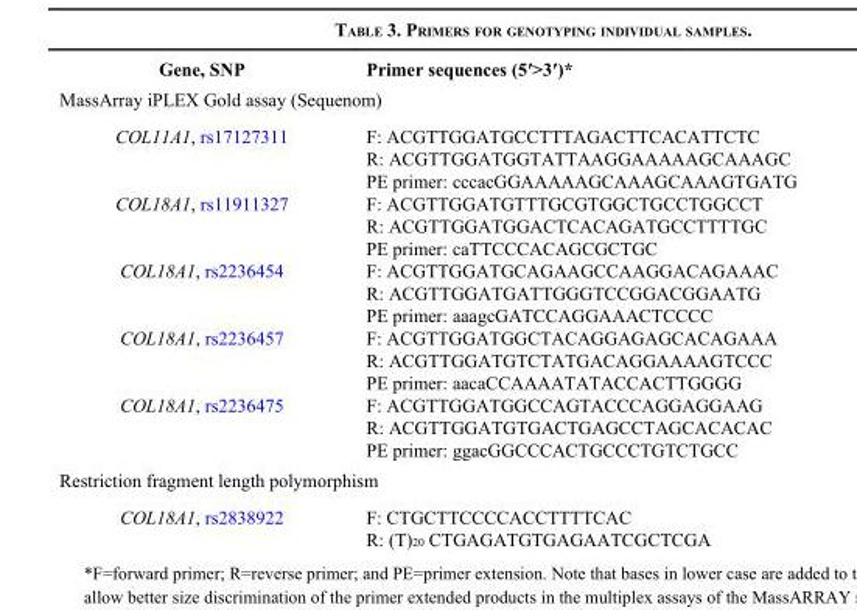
<table><thead><tr><td>Gene, SNP</td><td>Primer sequences (5′&gt;3′)*</td></tr></thead><tbody><tr><td colspan="2">MassArray iPLEX Gold assay (Sequenom)</td></tr><tr><td rowspan="3">COL11A1, rs17127311</td><td>F: ACGTTGGATGCCTTTAGACTTCACATTCTC</td></tr><tr><td>R: ACGTTGGATGGTATTAAGGAAAAAGCAAAGC</td></tr><tr><td>PE primer: cccacGGAAAAAGCAAAGCAAAGTGATG</td></tr><tr><td rowspan="3">COL18A1, rs11911327</td><td>F: ACGTTGGATGTTTGCGTGGCTGCCTGGCCT</td></tr><tr><td>R: ACGTTGGATGGACTCACAGATGCCTTTTGC</td></tr><tr><td>PE primer: caTTCCCACAGCGCTGC</td></tr><tr><td rowspan="3">COL18A1, rs2236454</td><td>F: ACGTTGGATGCAGAAGCCAAGGACAGAAAC</td></tr><tr><td>R: ACGTTGGATGATTGGGTCCGGACGGAATG</td></tr><tr><td>PE primer: aaagcGATCCAGGAAACTCCCC</td></tr><tr><td rowspan="3">COL18A1, rs2236457</td><td>F: ACGTTGGATGGCTACAGGAGAGCACAGAAA</td></tr><tr><td>R: ACGTTGGATGTCTATGACAGGAAAAGTCCC</td></tr><tr><td>PE primer: aacaCCAAAATATACCACTTGGGG</td></tr><tr><td rowspan="3">COL18A1, rs2236475</td><td>F: ACGTTGGATGGCCAGTACCCAGGAGGAAG</td></tr><tr><td>R: ACGTTGGATGTGACTGAGCCTAGCACACAC</td></tr><tr><td>PE primer: ggacGGCCCACTGCCCTGTCTGCC</td></tr><tr><td colspan="2">Restriction fragment length polymorphism</td></tr><tr><td rowspan="2">COL18A1, rs2838922</td><td>F: CTGCTTCCCCACCTTTTCAC</td></tr><tr><td>R: (T)<sub>20</sub> CTGAGATGTGAGAATCGCTCGA</td></tr></tbody></table>